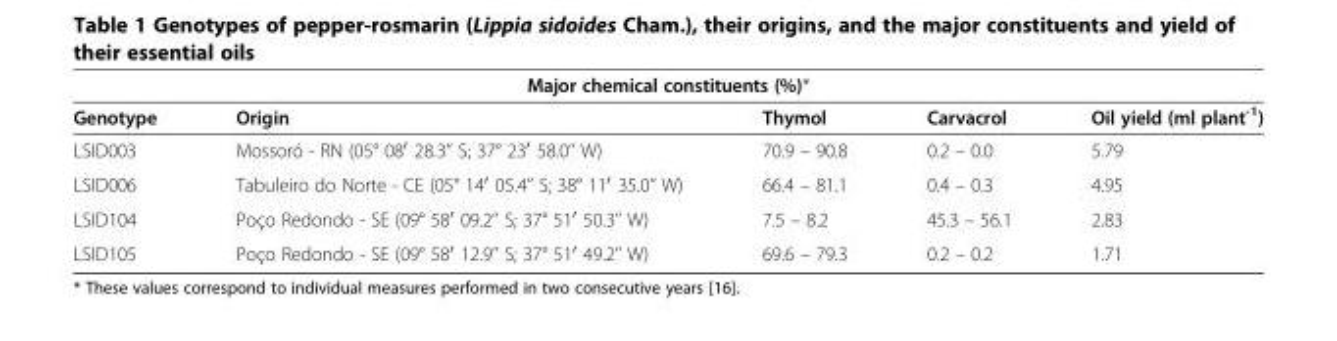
<table><thead><tr><td colspan="5">Major chemical constituents (%)*</td></tr><tr><td>Genotype</td><td>Origin</td><td>Thymol</td><td>Carvacrol</td><td>Oil yield (ml plant<sup>-1</sup>)</td></tr></thead><tbody><tr><td>LSID003</td><td>Mossoró - RN (05° 08′ 28.3’’ S; 37° 23′ 58.0’’ W)</td><td>70.9 – 90.8</td><td>0.2 – 0.0</td><td>5.79</td></tr><tr><td>LSID006</td><td>Tabuleiro do Norte - CE (05° 14′ 05.4’’ S; 38° 11′ 35.0’’ W)</td><td>66.4 – 81.1</td><td>0.4 – 0.3</td><td>4.95</td></tr><tr><td>LSID104</td><td>Poço Redondo - SE (09° 58′ 09.2’’ S; 37° 51′ 50.3’’ W)</td><td>7.5 – 8.2</td><td>45.3 – 56.1</td><td>2.83</td></tr><tr><td>LSID105</td><td>Poço Redondo - SE (09° 58′ 12.9’’ S; 37° 51′ 49.2’’ W)</td><td>69.6 – 79.3</td><td>0.2 – 0.2</td><td>1.71</td></tr></tbody></table>